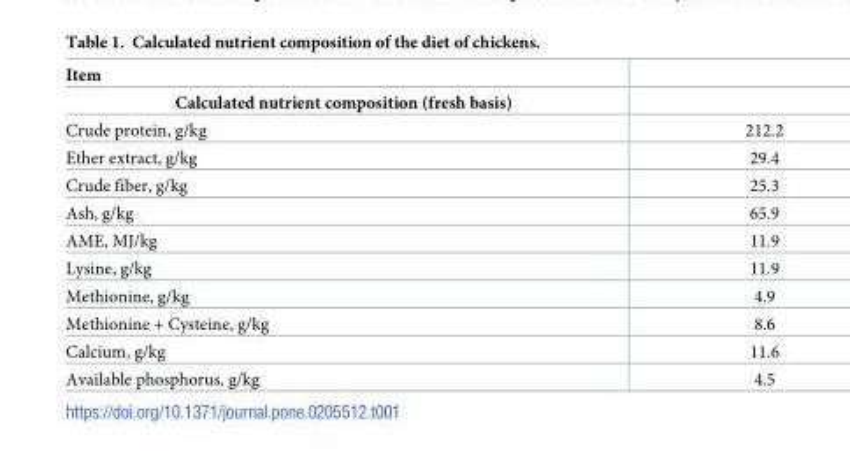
<table><thead><tr><td rowspan="2">Item Calculated nutrient composition (fresh basis)</td><td rowspan="2"></td></tr><tr></tr></thead><tbody><tr><td>Crude protein, g/kg</td><td>212.2</td></tr><tr><td>Ether extract, g/kg</td><td>29.4</td></tr><tr><td>Crude fiber, g/kg</td><td>25.3</td></tr><tr><td>Ash, g/kg</td><td>65.9</td></tr><tr><td>AME, MJ/kg</td><td>11.9</td></tr><tr><td>Lysine, g/kg</td><td>11.9</td></tr><tr><td>Methionine, g/kg</td><td>4.9</td></tr><tr><td>Methionine + Cysteine, g/kg</td><td>8.6</td></tr><tr><td>Calcium, g/kg</td><td>11.6</td></tr><tr><td>Available phosphorus, g/kg</td><td>4.5</td></tr></tbody></table>